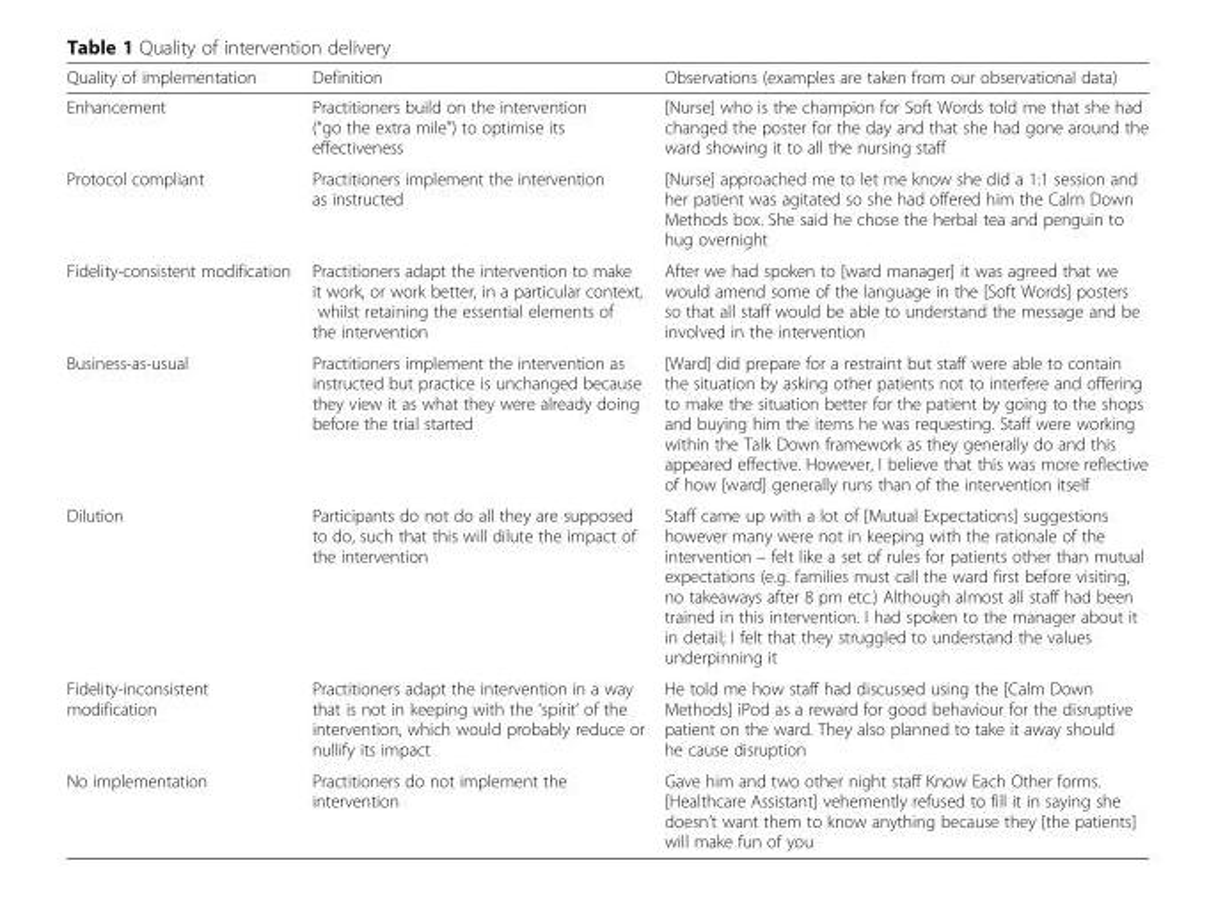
<table><thead><tr><td>Quality of implementation</td><td>Definition</td><td>Observations (examples are taken from our observational data)</td></tr></thead><tbody><tr><td>Enhancement</td><td>Practitioners build on the intervention (“go the extra mile”) to optimise its effectiveness</td><td>[Nurse] who is the champion for Soft Words told me that she had changed the poster for the day and that she had gone around the ward showing it to all the nursing staff</td></tr><tr><td>Protocol compliant</td><td>Practitioners implement the intervention as instructed</td><td>[Nurse] approached me to let me know she did a 1:1 session and her patient was agitated so she had offered him the Calm Down Methods box. She said he chose the herbal tea and penguin to hug overnight</td></tr><tr><td>Fidelity-consistent modification</td><td>Practitioners adapt the intervention to make it work, or work better, in a particular context, whilst retaining the essential elements of the intervention</td><td>After we had spoken to [ward manager] it was agreed that we would amend some of the language in the [Soft Words] posters so that all staff would be able to understand the message and be involved in the intervention</td></tr><tr><td>Business-as-usual</td><td>Practitioners implement the intervention as instructed but practice is unchanged because they view it as what they were already doing before the trial started</td><td>[Ward] did prepare for a restraint but staff were able to contain the situation by asking other patients not to interfere and offering to make the situation better for the patient by going to the shops and buying him the items he was requesting. Staff were working within the Talk Down framework as they generally do and this appeared effective. However, I believe that this was more reflective of how [ward] generally runs than of the intervention itself</td></tr><tr><td>Dilution</td><td>Participants do not do all they are supposed to do, such that this will dilute the impact of the intervention</td><td>Staff came up with a lot of [Mutual Expectations] suggestions however many were not in keeping with the rationale of the intervention – felt like a set of rules for patients other than mutual expectations (e.g. families must call the ward first before visiting, no takeaways after 8 pm etc.) Although almost all staff had been trained in this intervention. I had spoken to the manager about it in detail; I felt that they struggled to understand the values underpinning it</td></tr><tr><td>Fidelity-inconsistent modification</td><td>Practitioners adapt the intervention in a way that is not in keeping with the ‘spirit’ of the intervention, which would probably reduce or nullify its impact</td><td>He told me how staff had discussed using the [Calm Down Methods] iPod as a reward for good behaviour for the disruptive patient on the ward. They also planned to take it away should he cause disruption</td></tr><tr><td>No implementation</td><td>Practitioners do not implement the intervention</td><td>Gave him and two other night staff Know Each Other forms. [Healthcare Assistant] vehemently refused to fill it in saying she doesn’t want them to know anything because they [the patients] will make fun of you</td></tr></tbody></table>